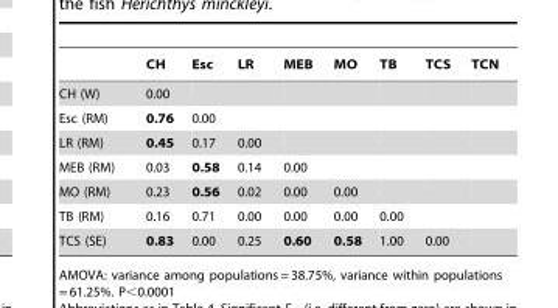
<table><thead><tr><td></td><td>CH</td><td>Esc</td><td>LR</td><td>MEB</td><td>MO</td><td>TB</td><td>TCS</td><td>TCN</td></tr></thead><tbody><tr><td>CH (W)</td><td>0.00</td><td></td><td></td><td></td><td></td><td></td><td></td><td></td></tr><tr><td>Esc (RM)</td><td>0.76</td><td>0.00</td><td></td><td></td><td></td><td></td><td></td><td></td></tr><tr><td>LR (RM)</td><td>0.45</td><td>0.17</td><td>0.00</td><td></td><td></td><td></td><td></td><td></td></tr><tr><td>MEB (RM)</td><td>0.03</td><td>0.58</td><td>0.14</td><td>0.00</td><td></td><td></td><td></td><td></td></tr><tr><td>MO (RM)</td><td>0.23</td><td>0.56</td><td>0.02</td><td>0.00</td><td>0.00</td><td></td><td></td><td></td></tr><tr><td>TB (RM)</td><td>0.16</td><td>0.71</td><td>0.00</td><td>0.00</td><td>0.00</td><td>0.00</td><td></td><td></td></tr><tr><td>TCS (SE)</td><td>0.83</td><td>0.00</td><td>0.25</td><td>0.60</td><td>0.58</td><td>1.00</td><td>0.00</td><td></td></tr></tbody></table>